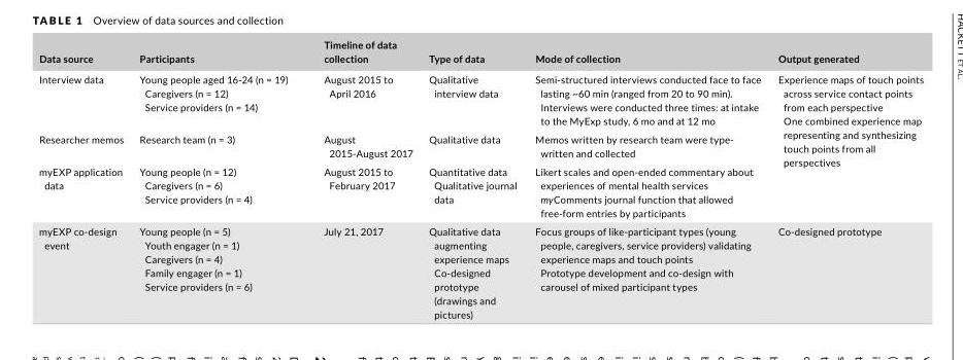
<table><thead><tr><td>Data source</td><td>Participants</td><td>Timeline of data collection</td><td>Type of data</td><td>Mode of collection</td><td>Output generated</td></tr></thead><tbody><tr><td>Interview data</td><td>Young people aged 16- 24 (n = 19) Caregivers (n = 12) Service providers (n = 14)</td><td>August 2015 to April 2016</td><td>Qualitative interview data</td><td>Semi- structured interviews conducted face to face lasting ~60 min (ranged from 20 to 90 min). Interviews were conducted three times: at intake to the MyExp study, 6 mo and at 12 mo</td><td rowspan="3">Experience maps of touch points across service contact points from each perspective One combined experience map representing and synthesizing touch points from all perspectives</td></tr><tr><td>Researcher memos</td><td>Research team (n = 3)</td><td>August 2015- August 2017</td><td>Qualitative data</td><td>Memos written by research team were type- written and collected</td></tr><tr><td>myEXP application data</td><td>Young people (n = 12) Caregivers (n = 6) Service providers (n = 4)</td><td>August 2015 to February 2017</td><td>Quantitative data Qualitative journal data</td><td>Likert scales and open- ended commentary about experiences of mental health services myComments journal function that allowed free- form entries by participants</td></tr><tr><td>myEXP co- design event</td><td>Young people (n = 5) Youth engager (n = 1) Caregivers (n = 4) Family engager (n = 1) Service providers (n = 6)</td><td>July 21, 2017</td><td>Qualitative data augmenting experience maps Co- designed prototype (drawings and pictures)</td><td>Focus groups of like- participant types (young people, caregivers, service providers) validating experience maps and touch points Prototype development and co- design with carousel of mixed participant types</td><td>Co- designed prototype</td></tr></tbody></table>